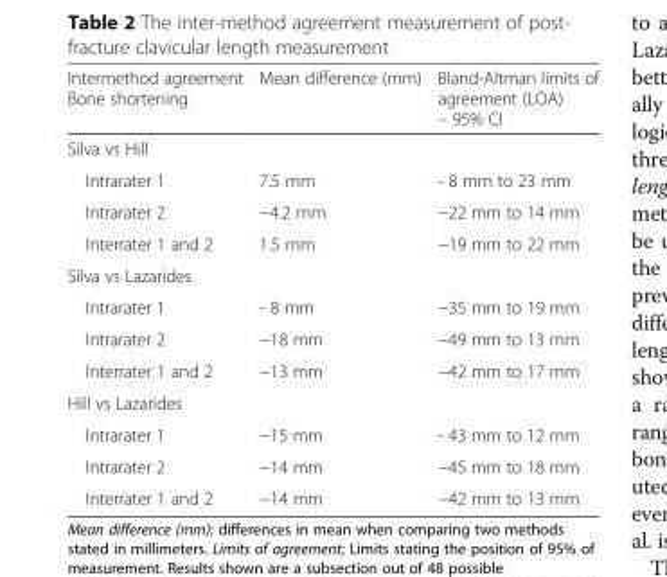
<table><thead><tr><td>Intermethod agreement Bone shortening</td><td>Mean difference (mm)</td><td>Bland-Altman limits of agreement (LOA) – 95% CI</td></tr></thead><tbody><tr><td colspan="3">Silva vs Hill</td></tr><tr><td>Intrarater 1</td><td>7.5 mm</td><td>- 8 mm to 23 mm</td></tr><tr><td>Intrarater 2</td><td>−4.2 mm</td><td>−22 mm to 14 mm</td></tr><tr><td>Interrater 1 and 2</td><td>1.5 mm</td><td>−19 mm to 22 mm</td></tr><tr><td colspan="3">Silva vs Lazarides</td></tr><tr><td>Intrarater 1</td><td>- 8 mm</td><td>−35 mm to 19 mm</td></tr><tr><td>Intrarater 2</td><td>−18 mm</td><td>−49 mm to 13 mm</td></tr><tr><td>Interrater 1 and 2</td><td>−13 mm</td><td>−42 mm to 17 mm</td></tr><tr><td colspan="3">Hill vs Lazarides</td></tr><tr><td>Intrarater 1</td><td>−15 mm</td><td>- 43 mm to 12 mm</td></tr><tr><td>Intrarater 2</td><td>−14 mm</td><td>−45 mm to 18 mm</td></tr><tr><td>Interrater 1 and 2</td><td>−14 mm</td><td>−42 mm to 13 mm</td></tr></tbody></table>